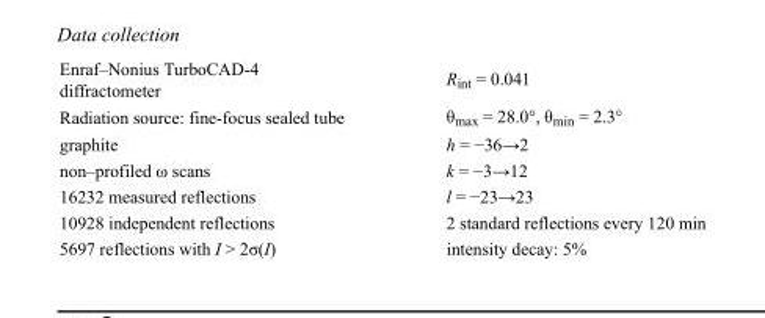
<table><tbody><tr><td>Enraf–Nonius TurboCAD-4 diffractometer</td><td>R<sub>int</sub> = 0.041</td></tr><tr><td>Radiation source: fine-focus sealed tube</td><td>θ<sub>max</sub> = 28.0°, θ<sub>min</sub> = 2.3°</td></tr><tr><td>graphite</td><td>h = −36→2</td></tr><tr><td>non–profiled ω scans</td><td>k = −3→12</td></tr><tr><td>16232 measured reflections</td><td>l = −23→23</td></tr><tr><td>10928 independent reflections</td><td>2 standard reflections every 120 min</td></tr><tr><td>5697 reflections with I &gt; 2σ(I)</td><td>intensity decay: 5%</td></tr></tbody></table>